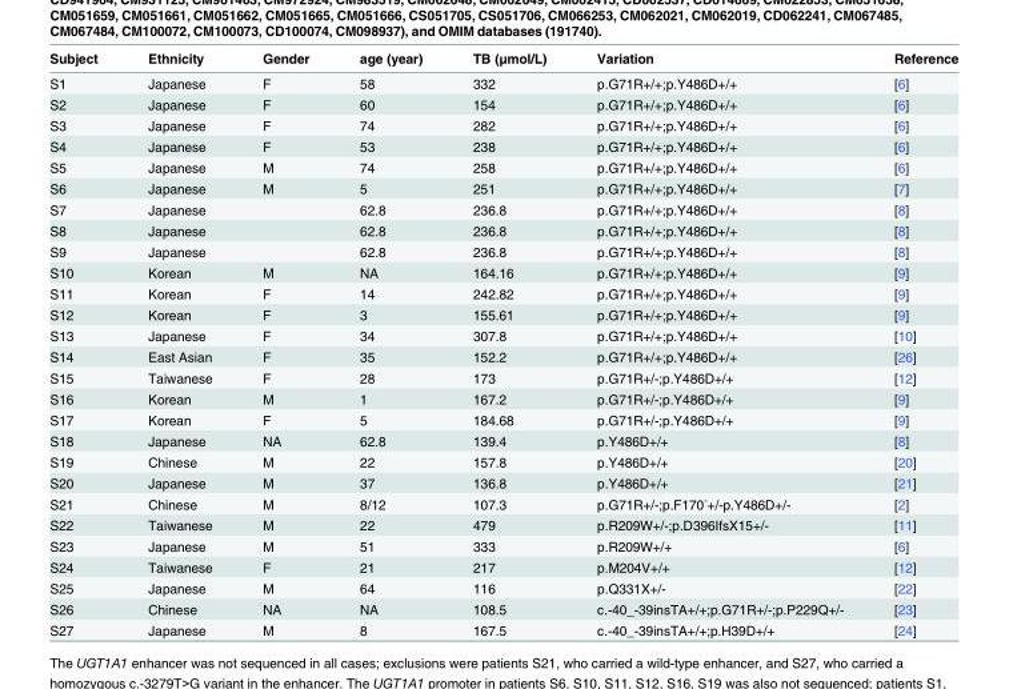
<table><thead><tr><td>Subject</td><td>Ethnicity</td><td>Gender</td><td>age (year)</td><td>TB (μmol/L)</td><td>Variation</td><td>Reference</td></tr></thead><tbody><tr><td>S1</td><td>Japanese</td><td>F</td><td>58</td><td>332</td><td>p.G71R+/+;p.Y486D+/+</td><td>[6]</td></tr><tr><td>S2</td><td>Japanese</td><td>F</td><td>60</td><td>154</td><td>p.G71R+/+;p.Y486D+/+</td><td>[6]</td></tr><tr><td>S3</td><td>Japanese</td><td>F</td><td>74</td><td>282</td><td>p.G71R+/+;p.Y486D+/+</td><td>[6]</td></tr><tr><td>S4</td><td>Japanese</td><td>F</td><td>53</td><td>238</td><td>p.G71R+/+;p.Y486D+/+</td><td>[6]</td></tr><tr><td>S5</td><td>Japanese</td><td>M</td><td>74</td><td>258</td><td>p.G71R+/+;p.Y486D+/+</td><td>[6]</td></tr><tr><td>S6</td><td>Japanese</td><td>M</td><td>5</td><td>251</td><td>p.G71R+/+;p.Y486D+/+</td><td>[7]</td></tr><tr><td>S7</td><td>Japanese</td><td></td><td>62.8</td><td>236.8</td><td>p.G71R+/+;p.Y486D+/+</td><td>[8]</td></tr><tr><td>S8</td><td>Japanese</td><td></td><td>62.8</td><td>236.8</td><td>p.G71R+/+;p.Y486D+/+</td><td>[8]</td></tr><tr><td>S9</td><td>Japanese</td><td></td><td>62.8</td><td>236.8</td><td>p.G71R+/+;p.Y486D+/+</td><td>[8]</td></tr><tr><td>S10</td><td>Korean</td><td>M</td><td>NA</td><td>164.16</td><td>p.G71R+/+;p.Y486D+/+</td><td>[9]</td></tr><tr><td>S11</td><td>Korean</td><td>F</td><td>14</td><td>242.82</td><td>p.G71R+/+;p.Y486D+/+</td><td>[9]</td></tr><tr><td>S12</td><td>Korean</td><td>F</td><td>3</td><td>155.61</td><td>p.G71R+/+;p.Y486D+/+</td><td>[9]</td></tr><tr><td>S13</td><td>Japanese</td><td>F</td><td>34</td><td>307.8</td><td>p.G71R+/+;p.Y486D+/+</td><td>[10]</td></tr><tr><td>S14</td><td>East Asian</td><td>F</td><td>35</td><td>152.2</td><td>p.G71R+/+;p.Y486D+/+</td><td>[26]</td></tr><tr><td>S15</td><td>Taiwanese</td><td>F</td><td>28</td><td>173</td><td>p.G71R+/-;p.Y486D+/+</td><td>[12]</td></tr><tr><td>S16</td><td>Korean</td><td>M</td><td>1</td><td>167.2</td><td>p.G71R+/-;p.Y486D+/+</td><td>[9]</td></tr><tr><td>S17</td><td>Korean</td><td>F</td><td>5</td><td>184.68</td><td>p.G71R+/-;p.Y486D+/+</td><td>[9]</td></tr><tr><td>S18</td><td>Japanese</td><td>NA</td><td>62.8</td><td>139.4</td><td>p.Y486D+/+</td><td>[8]</td></tr><tr><td>S19</td><td>Chinese</td><td>M</td><td>22</td><td>157.8</td><td>p.Y486D+/+</td><td>[20]</td></tr><tr><td>S20</td><td>Japanese</td><td>M</td><td>37</td><td>136.8</td><td>p.Y486D+/+</td><td>[21]</td></tr><tr><td>S21</td><td>Chinese</td><td>M</td><td>8/12</td><td>107.3</td><td>p.G71R+/-;p.F170<sup>-</sup>+/-p.Y486D+/-</td><td>[2]</td></tr><tr><td>S22</td><td>Taiwanese</td><td>M</td><td>22</td><td>479</td><td>p.R209W+/-;p.D396IfsX15+/-</td><td>[11]</td></tr><tr><td>S23</td><td>Japanese</td><td>M</td><td>51</td><td>333</td><td>p.R209W+/+</td><td>[6]</td></tr><tr><td>S24</td><td>Taiwanese</td><td>F</td><td>21</td><td>217</td><td>p.M204V+/+</td><td>[12]</td></tr><tr><td>S25</td><td>Japanese</td><td>M</td><td>64</td><td>116</td><td>p.Q331X+/-</td><td>[22]</td></tr><tr><td>S26</td><td>Chinese</td><td>NA</td><td>NA</td><td>108.5</td><td>c.-40_-39insTA+/+;p.G71R+/-;p.P229Q+/-</td><td>[23]</td></tr><tr><td>S27</td><td>Japanese</td><td>M</td><td>8</td><td>167.5</td><td>c.-40_-39insTA+/+;p.H39D+/+</td><td>[24]</td></tr></tbody></table>